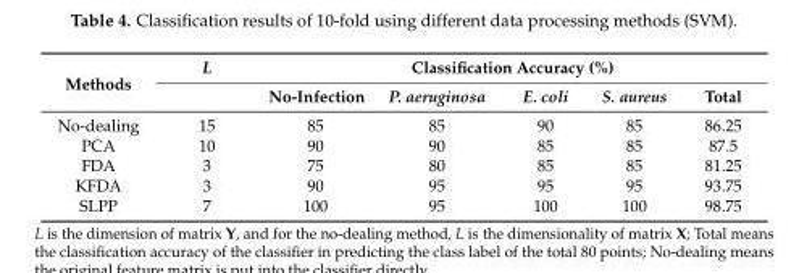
<table><thead><tr><td rowspan="2">Methods</td><td rowspan="2">L</td><td colspan="5">Classification Accuracy (%)</td></tr><tr><td>No-Infection</td><td>P. aeruginosa</td><td>E. coli</td><td>S. aureus</td><td>Total</td></tr></thead><tbody><tr><td>No-dealing</td><td>15</td><td>85</td><td>85</td><td>90</td><td>85</td><td>86.25</td></tr><tr><td>PCA</td><td>10</td><td>90</td><td>90</td><td>85</td><td>85</td><td>87.5</td></tr><tr><td>FDA</td><td>3</td><td>75</td><td>80</td><td>85</td><td>85</td><td>81.25</td></tr><tr><td>KFDA</td><td>3</td><td>90</td><td>95</td><td>95</td><td>95</td><td>93.75</td></tr><tr><td>SLPP</td><td>7</td><td>100</td><td>95</td><td>100</td><td>100</td><td>98.75</td></tr></tbody></table>